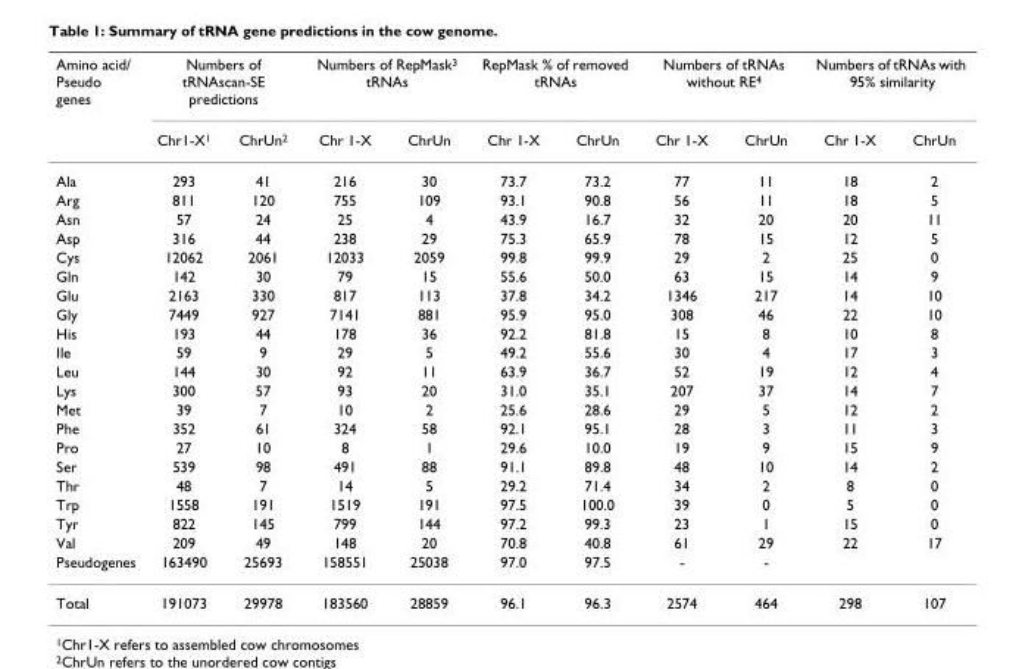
<table><thead><tr><td rowspan="2">Amino acid/ Pseudo genes</td><td colspan="2">Numbers of tRNAscan-SE predictions</td><td colspan="2">Numbers of RepMask<sup>3</sup> tRNAs</td><td colspan="2">RepMask % of removed tRNAs</td><td colspan="2">Numbers of tRNAs without RE<sup>4</sup></td><td colspan="2">Numbers of tRNAs with 95% similarity</td></tr><tr><td>Chr1-X<sup>1</sup></td><td>ChrUn<sup>2</sup></td><td>Chr 1-X</td><td>ChrUn</td><td>Chr 1-X</td><td>ChrUn</td><td>Chr 1-X</td><td>ChrUn</td><td>Chr 1-X</td><td>ChrUn</td></tr></thead><tbody><tr><td>Ala</td><td>293</td><td>41</td><td>216</td><td>30</td><td>73.7</td><td>73.2</td><td>77</td><td>11</td><td>18</td><td>2</td></tr><tr><td>Arg</td><td>811</td><td>120</td><td>755</td><td>109</td><td>93.1</td><td>90.8</td><td>56</td><td>11</td><td>18</td><td>5</td></tr><tr><td>Asn</td><td>57</td><td>24</td><td>25</td><td>4</td><td>43.9</td><td>16.7</td><td>32</td><td>20</td><td>20</td><td>11</td></tr><tr><td>Asp</td><td>316</td><td>44</td><td>238</td><td>29</td><td>75.3</td><td>65.9</td><td>78</td><td>15</td><td>12</td><td>5</td></tr><tr><td>Cys</td><td>12062</td><td>2061</td><td>12033</td><td>2059</td><td>99.8</td><td>99.9</td><td>29</td><td>2</td><td>25</td><td>0</td></tr><tr><td>Gln</td><td>142</td><td>30</td><td>79</td><td>15</td><td>55.6</td><td>50.0</td><td>63</td><td>15</td><td>14</td><td>9</td></tr><tr><td>Glu</td><td>2163</td><td>330</td><td>817</td><td>113</td><td>37.8</td><td>34.2</td><td>1346</td><td>217</td><td>14</td><td>10</td></tr><tr><td>Gly</td><td>7449</td><td>927</td><td>7141</td><td>881</td><td>95.9</td><td>95.0</td><td>308</td><td>46</td><td>22</td><td>10</td></tr><tr><td>His</td><td>193</td><td>44</td><td>178</td><td>36</td><td>92.2</td><td>81.8</td><td>15</td><td>8</td><td>10</td><td>8</td></tr><tr><td>Ile</td><td>59</td><td>9</td><td>29</td><td>5</td><td>49.2</td><td>55.6</td><td>30</td><td>4</td><td>17</td><td>3</td></tr><tr><td>Leu</td><td>144</td><td>30</td><td>92</td><td>11</td><td>63.9</td><td>36.7</td><td>52</td><td>19</td><td>12</td><td>4</td></tr><tr><td>Lys</td><td>300</td><td>57</td><td>93</td><td>20</td><td>31.0</td><td>35.1</td><td>207</td><td>37</td><td>14</td><td>7</td></tr><tr><td>Met</td><td>39</td><td>7</td><td>10</td><td>2</td><td>25.6</td><td>28.6</td><td>29</td><td>5</td><td>12</td><td>2</td></tr><tr><td>Phe</td><td>352</td><td>61</td><td>324</td><td>58</td><td>92.1</td><td>95.1</td><td>28</td><td>3</td><td>11</td><td>3</td></tr><tr><td>Pro</td><td>27</td><td>10</td><td>8</td><td>1</td><td>29.6</td><td>10.0</td><td>19</td><td>9</td><td>15</td><td>9</td></tr><tr><td>Ser</td><td>539</td><td>98</td><td>491</td><td>88</td><td>91.1</td><td>89.8</td><td>48</td><td>10</td><td>14</td><td>2</td></tr><tr><td>Thr</td><td>48</td><td>7</td><td>14</td><td>5</td><td>29.2</td><td>71.4</td><td>34</td><td>2</td><td>8</td><td>0</td></tr><tr><td>Trp</td><td>1558</td><td>191</td><td>1519</td><td>191</td><td>97.5</td><td>100.0</td><td>39</td><td>0</td><td>5</td><td>0</td></tr><tr><td>Tyr</td><td>822</td><td>145</td><td>799</td><td>144</td><td>97.2</td><td>99.3</td><td>23</td><td>1</td><td>15</td><td>0</td></tr><tr><td>Val</td><td>209</td><td>49</td><td>148</td><td>20</td><td>70.8</td><td>40.8</td><td>61</td><td>29</td><td>22</td><td>17</td></tr><tr><td>Pseudogenes</td><td>163490</td><td>25693</td><td>158551</td><td>25038</td><td>97.0</td><td>97.5</td><td>-</td><td>-</td><td></td><td></td></tr><tr><td>Total</td><td>191073</td><td>29978</td><td>183560</td><td>28859</td><td>96.1</td><td>96.3</td><td>2574</td><td>464</td><td>298</td><td>107</td></tr></tbody></table>